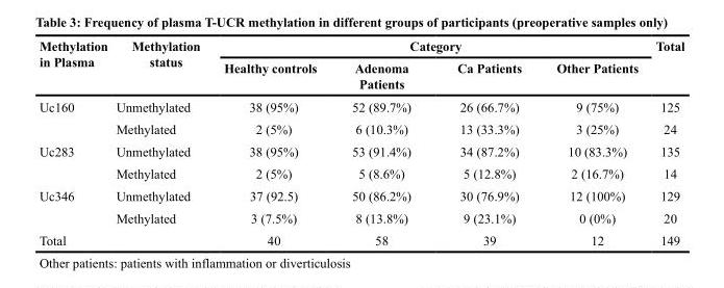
<table><thead><tr><td rowspan="2">Methylation in Plasma</td><td rowspan="2">Methylation status</td><td colspan="4">Category</td><td rowspan="2">Total</td></tr><tr><td>Healthy controls</td><td>Adenoma Patients</td><td>Ca Patients</td><td>Other Patients</td></tr></thead><tbody><tr><td rowspan="2">Uc160</td><td>Unmethylated</td><td>38 (95%)</td><td>52 (89.7%)</td><td>26 (66.7%)</td><td>9 (75%)</td><td>125</td></tr><tr><td>Methylated</td><td>2 (5%)</td><td>6 (10.3%)</td><td>13 (33.3%)</td><td>3 (25%)</td><td>24</td></tr><tr><td rowspan="2">Uc283</td><td>Unmethylated</td><td>38 (95%)</td><td>53 (91.4%)</td><td>34 (87.2%)</td><td>10 (83.3%)</td><td>135</td></tr><tr><td>Methylated</td><td>2 (5%)</td><td>5 (8.6%)</td><td>5 (12.8%)</td><td>2 (16.7%)</td><td>14</td></tr><tr><td rowspan="2">Uc346</td><td>Unmethylated</td><td>37 (92.5)</td><td>50 (86.2%)</td><td>30 (76.9%)</td><td>12 (100%)</td><td>129</td></tr><tr><td>Methylated</td><td>3 (7.5%)</td><td>8 (13.8%)</td><td>9 (23.1%)</td><td>0 (0%)</td><td>20</td></tr><tr><td colspan="2">Total</td><td>40</td><td>58</td><td>39</td><td>12</td><td>149</td></tr></tbody></table>